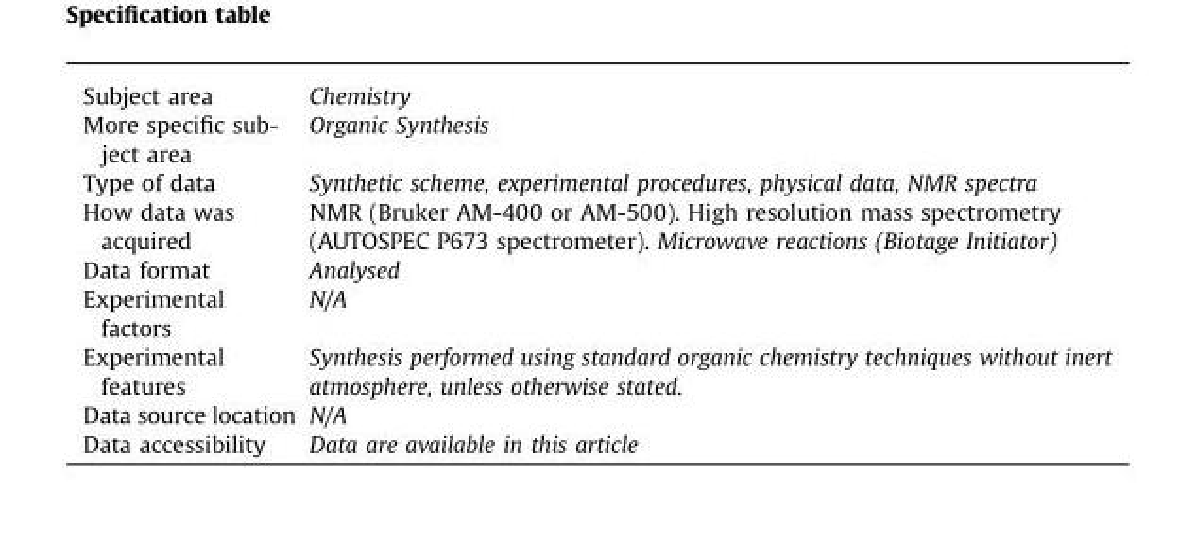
<table><tbody><tr><td>Subject area</td><td>Chemistry</td></tr><tr><td>More specific sub- ject area</td><td>Organic Synthesis</td></tr><tr><td>Type of data</td><td>Synthetic scheme, experimental procedures, physical data, NMR spectra</td></tr><tr><td>How data was acquired</td><td>NMR (Bruker AM-400 or AM-500). High resolution mass spectrometry (AUTOSPEC P673 spectrometer). Microwave reactions (Biotage Initiator)</td></tr><tr><td>Data format</td><td>Analysed</td></tr><tr><td>Experimental factors</td><td>N/A</td></tr><tr><td>Experimental features</td><td>Synthesis performed using standard organic chemistry techniques without inert atmosphere, unless otherwise stated.</td></tr><tr><td>Data source location</td><td>N/A</td></tr><tr><td>Data accessibility</td><td>Data are available in this article</td></tr></tbody></table>